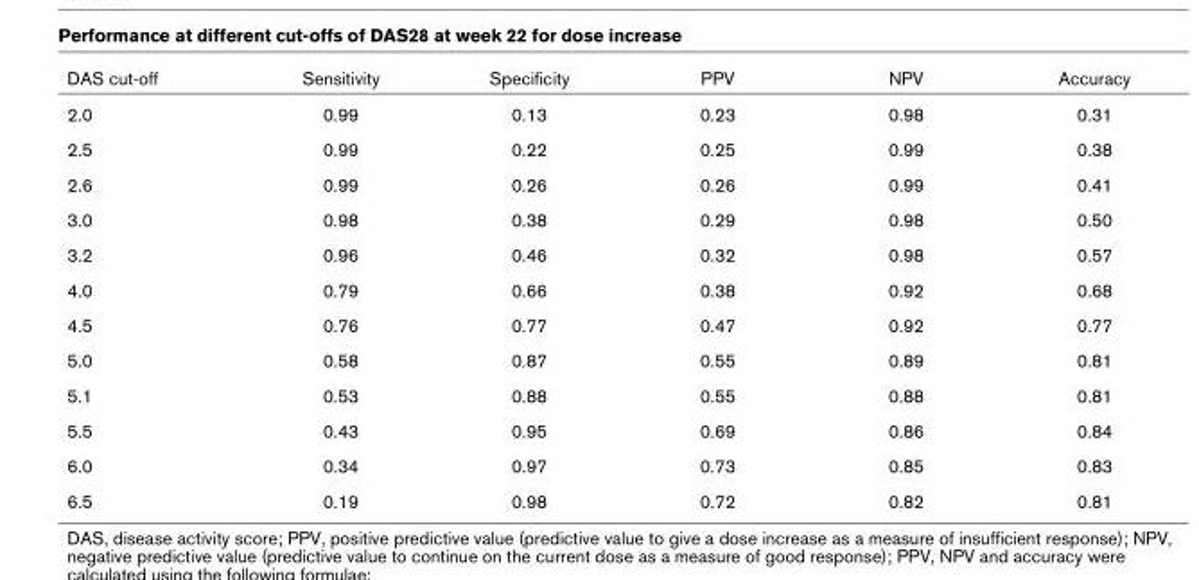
<table><thead><tr><td>DAS cut-off</td><td>Sensitivity</td><td>Specificity</td><td>PPV</td><td>NPV</td><td>Accuracy</td></tr></thead><tbody><tr><td>2.0</td><td>0.99</td><td>0.13</td><td>0.23</td><td>0.98</td><td>0.31</td></tr><tr><td>2.5</td><td>0.99</td><td>0.22</td><td>0.25</td><td>0.99</td><td>0.38</td></tr><tr><td>2.6</td><td>0.99</td><td>0.26</td><td>0.26</td><td>0.99</td><td>0.41</td></tr><tr><td>3.0</td><td>0.98</td><td>0.38</td><td>0.29</td><td>0.98</td><td>0.50</td></tr><tr><td>3.2</td><td>0.96</td><td>0.46</td><td>0.32</td><td>0.98</td><td>0.57</td></tr><tr><td>4.0</td><td>0.79</td><td>0.66</td><td>0.38</td><td>0.92</td><td>0.68</td></tr><tr><td>4.5</td><td>0.76</td><td>0.77</td><td>0.47</td><td>0.92</td><td>0.77</td></tr><tr><td>5.0</td><td>0.58</td><td>0.87</td><td>0.55</td><td>0.89</td><td>0.81</td></tr><tr><td>5.1</td><td>0.53</td><td>0.88</td><td>0.55</td><td>0.88</td><td>0.81</td></tr><tr><td>5.5</td><td>0.43</td><td>0.95</td><td>0.69</td><td>0.86</td><td>0.84</td></tr><tr><td>6.0</td><td>0.34</td><td>0.97</td><td>0.73</td><td>0.85</td><td>0.83</td></tr><tr><td>6.5</td><td>0.19</td><td>0.98</td><td>0.72</td><td>0.82</td><td>0.81</td></tr></tbody></table>